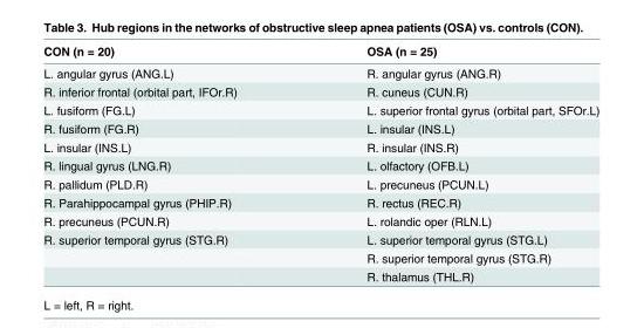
<table><thead><tr><td>CON (n = 20)</td><td>OSA (n = 25)</td></tr></thead><tbody><tr><td>L. angular gyrus (ANG.L)</td><td>R. angular gyrus (ANG.R)</td></tr><tr><td>R. inferior frontal (orbital part, IFOr.R)</td><td>R. cuneus (CUN.R)</td></tr><tr><td>L. fusiform (FG.L)</td><td>L. superior frontal gyrus (orbital part, SFOr.L)</td></tr><tr><td>R. fusiform (FG.R)</td><td>L. insular (INS.L)</td></tr><tr><td>L. insular (INS.L)</td><td>R. insular (INS.R)</td></tr><tr><td>R. lingual gyrus (LNG.R)</td><td>L. olfactory (OFB.L)</td></tr><tr><td>R. pallidum (PLD.R)</td><td>L. precuneus (PCUN.L)</td></tr><tr><td>R. Parahippocampal gyrus (PHIP.R)</td><td>R. rectus (REC.R)</td></tr><tr><td>R. precuneus (PCUN.R)</td><td>L. rolandic oper (RLN.L)</td></tr><tr><td rowspan="3">R. superior temporal gyrus (STG.R)</td><td>L. superior temporal gyrus (STG.L)</td></tr><tr><td>R. superior temporal gyrus (STG.R)</td></tr><tr><td>R. thalamus (THL.R)</td></tr></tbody></table>